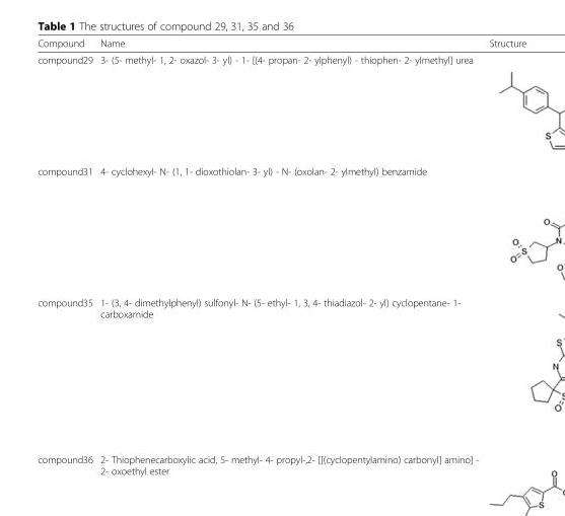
<table><thead><tr><td>Compound</td><td>Name</td><td>Structure</td></tr></thead><tbody><tr><td>compound29</td><td>3- (5- methyl- 1, 2- oxazol- 3- yl) - 1- [(4- propan- 2- ylphenyl) - thiophen- 2- ylmethyl] urea</td><td></td></tr><tr><td>compound31</td><td>4- cyclohexyl- N- (1, 1- dioxothiolan- 3- yl) - N- (oxolan- 2- ylmethyl) benzamide</td><td></td></tr><tr><td>compound35</td><td>1- (3, 4- dimethylphenyl) sulfonyl- N- (5- ethyl- 1, 3, 4- thiadiazol- 2- yl) cyclopentane- 1- carboxamide</td><td></td></tr><tr><td>compound36</td><td>2- Thiophenecarboxylic acid, 5- methyl- 4- propyl-,2- [[(cyclopentylamino) carbonyl] amino] - 2- oxoethyl ester</td><td></td></tr></tbody></table>